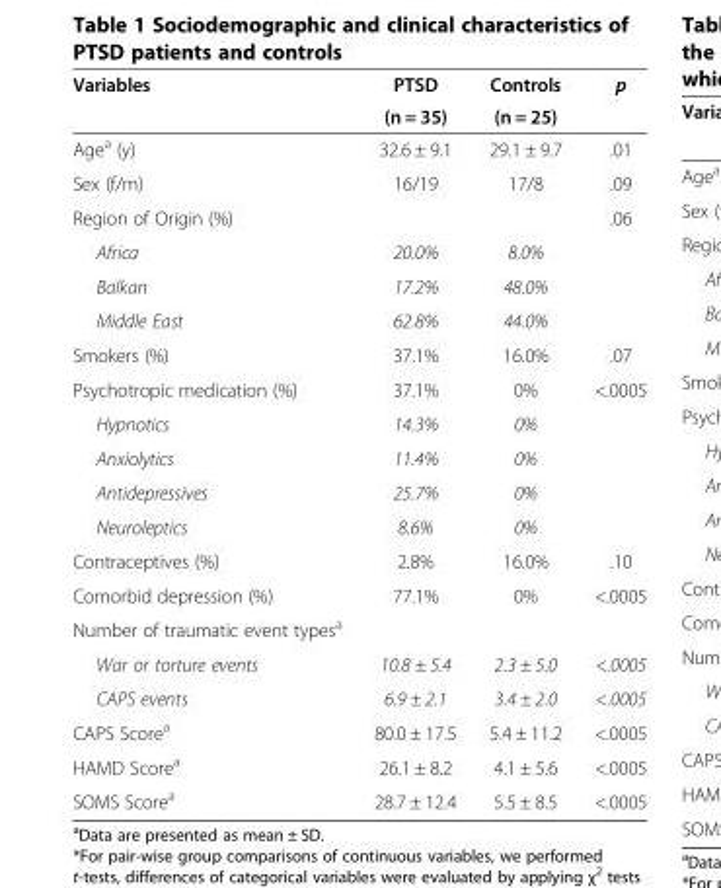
<table><thead><tr><td rowspan="2">Variables</td><td rowspan="2">PTSD (n = 35)</td><td rowspan="2">Controls (n = 25)</td><td rowspan="2">p</td></tr><tr></tr></thead><tbody><tr><td>Age<sup>a</sup> (y)</td><td>32.6 ± 9.1</td><td>29.1 ± 9.7</td><td>.01</td></tr><tr><td>Sex (f/m)</td><td>16/19</td><td>17/8</td><td>.09</td></tr><tr><td>Region of Origin (%)</td><td></td><td></td><td>.06</td></tr><tr><td>Africa</td><td>20.0%</td><td>8.0%</td><td></td></tr><tr><td>Balkan</td><td>17.2%</td><td>48.0%</td><td></td></tr><tr><td>Middle East</td><td>62.8%</td><td>44.0%</td><td></td></tr><tr><td>Smokers (%)</td><td>37.1%</td><td>16.0%</td><td>.07</td></tr><tr><td>Psychotropic medication (%)</td><td>37.1%</td><td>0%</td><td>&lt;.0005</td></tr><tr><td>Hypnotics</td><td>14.3%</td><td>0%</td><td></td></tr><tr><td>Anxiolytics</td><td>11.4%</td><td>0%</td><td></td></tr><tr><td>Antidepressives</td><td>25.7%</td><td>0%</td><td></td></tr><tr><td>Neuroleptics</td><td>8.6%</td><td>0%</td><td></td></tr><tr><td>Contraceptives (%)</td><td>2.8%</td><td>16.0%</td><td>.10</td></tr><tr><td>Comorbid depression (%)</td><td>77.1%</td><td>0%</td><td>&lt;.0005</td></tr><tr><td colspan="4">Number of traumatic event types<sup>a</sup></td></tr><tr><td>War or torture events</td><td>10.8 ± 5.4</td><td>2.3 ± 5.0</td><td>&lt;.0005</td></tr><tr><td>CAPS events</td><td>6.9 ± 2.1</td><td>3.4 ± 2.0</td><td>&lt;.0005</td></tr><tr><td>CAPS Score<sup>a</sup></td><td>80.0 ± 17.5</td><td>5.4 ± 11.2</td><td>&lt;.0005</td></tr><tr><td>HAMD Score<sup>a</sup></td><td>26.1 ± 8.2</td><td>4.1 ± 5.6</td><td>&lt;.0005</td></tr><tr><td>SOMS Score<sup>a</sup></td><td>28.7 ± 12.4</td><td>5.5 ± 8.5</td><td>&lt;.0005</td></tr></tbody></table>